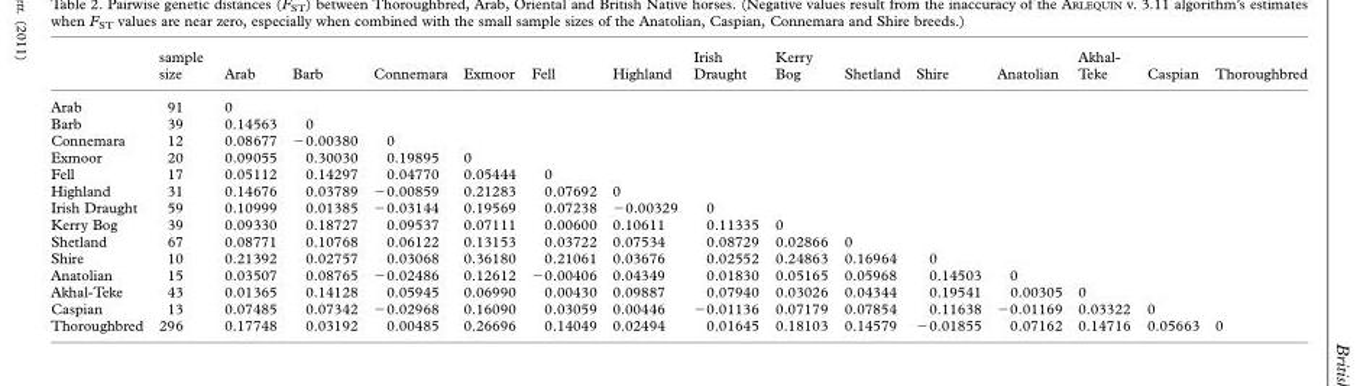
<table><thead><tr><td></td><td>sample size</td><td>Arab</td><td>Barb</td><td>Connemara</td><td>Exmoor</td><td>Fell</td><td>Highland</td><td>Irish Draught</td><td>Kerry Bog</td><td>Shetland</td><td>Shire</td><td>Anatolian</td><td>Akhal- Teke</td><td>Caspian</td><td>Thoroughbred</td></tr></thead><tbody><tr><td>Arab</td><td>91</td><td>0</td><td></td><td></td><td></td><td></td><td></td><td></td><td></td><td></td><td></td><td></td><td></td><td></td><td></td></tr><tr><td>Barb</td><td>39</td><td>0.14563</td><td>0</td><td></td><td></td><td></td><td></td><td></td><td></td><td></td><td></td><td></td><td></td><td></td><td></td></tr><tr><td>Connemara</td><td>12</td><td>0.08677</td><td>−0.00380</td><td>0</td><td></td><td></td><td></td><td></td><td></td><td></td><td></td><td></td><td></td><td></td><td></td></tr><tr><td>Exmoor</td><td>20</td><td>0.09055</td><td>0.30030</td><td>0.19895</td><td>0</td><td></td><td></td><td></td><td></td><td></td><td></td><td></td><td></td><td></td><td></td></tr><tr><td>Fell</td><td>17</td><td>0.05112</td><td>0.14297</td><td>0.04770</td><td>0.05444</td><td>0</td><td></td><td></td><td></td><td></td><td></td><td></td><td></td><td></td><td></td></tr><tr><td>Highland</td><td>31</td><td>0.14676</td><td>0.03789</td><td>−0.00859</td><td>0.21283</td><td>0.07692</td><td>0</td><td></td><td></td><td></td><td></td><td></td><td></td><td></td><td></td></tr><tr><td>Irish Draught</td><td>59</td><td>0.10999</td><td>0.01385</td><td>−0.03144</td><td>0.19569</td><td>0.07238</td><td>−0.00329</td><td>0</td><td></td><td></td><td></td><td></td><td></td><td></td><td></td></tr><tr><td>Kerry Bog</td><td>39</td><td>0.09330</td><td>0.18727</td><td>0.09537</td><td>0.07111</td><td>0.00600</td><td>0.10611</td><td>0.11335</td><td>0</td><td></td><td></td><td></td><td></td><td></td><td></td></tr><tr><td>Shetland</td><td>67</td><td>0.08771</td><td>0.10768</td><td>0.06122</td><td>0.13153</td><td>0.03722</td><td>0.07534</td><td>0.08729</td><td>0.02866</td><td>0</td><td></td><td></td><td></td><td></td><td></td></tr><tr><td>Shire</td><td>10</td><td>0.21392</td><td>0.02757</td><td>0.03068</td><td>0.36180</td><td>0.21061</td><td>0.03676</td><td>0.02552</td><td>0.24863</td><td>0.16964</td><td>0</td><td></td><td></td><td></td><td></td></tr><tr><td>Anatolian</td><td>15</td><td>0.03507</td><td>0.08765</td><td>−0.02486</td><td>0.12612</td><td>−0.00406</td><td>0.04349</td><td>0.01830</td><td>0.05165</td><td>0.05968</td><td>0.14503</td><td>0</td><td></td><td></td><td></td></tr><tr><td>Akhal-Teke</td><td>43</td><td>0.01365</td><td>0.14128</td><td>0.05945</td><td>0.06990</td><td>0.00430</td><td>0.09887</td><td>0.07940</td><td>0.03026</td><td>0.04344</td><td>0.19541</td><td>0.00305</td><td>0</td><td></td><td></td></tr><tr><td>Caspian</td><td>13</td><td>0.07485</td><td>0.07342</td><td>−0.02968</td><td>0.16090</td><td>0.03059</td><td>0.00446</td><td>−0.01136</td><td>0.07179</td><td>0.07854</td><td>0.11638</td><td>−0.01169</td><td>0.03322</td><td>0</td><td></td></tr><tr><td>Thoroughbred</td><td>296</td><td>0.17748</td><td>0.03192</td><td>0.00485</td><td>0.26696</td><td>0.14049</td><td>0.02494</td><td>0.01645</td><td>0.18103</td><td>0.14579</td><td>−0.01855</td><td>0.07162</td><td>0.14716</td><td>0.05663</td><td>0</td></tr></tbody></table>